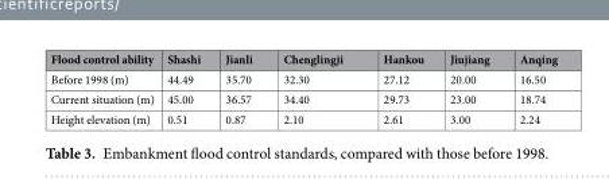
<table><thead><tr><td>Flood control ability</td><td>Shashi</td><td>Jianli</td><td>Chenglingji</td><td>Hankou</td><td>Jiujiang</td><td>Anqing</td></tr></thead><tbody><tr><td>Before 1998 (m)</td><td>44.49</td><td>35.70</td><td>32.30</td><td>27.12</td><td>20.00</td><td>16.50</td></tr><tr><td>Current situation (m)</td><td>45.00</td><td>36.57</td><td>34.40</td><td>29.73</td><td>23.00</td><td>18.74</td></tr><tr><td>Height elevation (m)</td><td>0.51</td><td>0.87</td><td>2.10</td><td>2.61</td><td>3.00</td><td>2.24</td></tr></tbody></table>